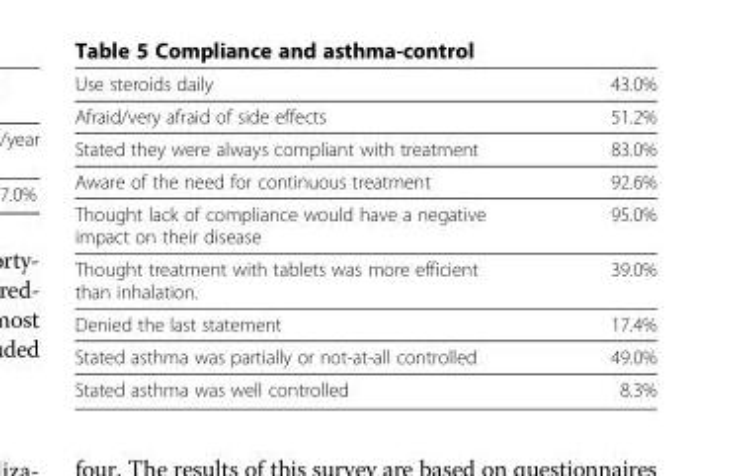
<table><tbody><tr><td>Use steroids daily</td><td>43.0%</td></tr><tr><td>Afraid/very afraid of side effects</td><td>51.2%</td></tr><tr><td>Stated they were always compliant with treatment</td><td>83.0%</td></tr><tr><td>Aware of the need for continuous treatment</td><td>92.6%</td></tr><tr><td>Thought lack of compliance would have a negative impact on their disease</td><td>95.0%</td></tr><tr><td>Thought treatment with tablets was more efficient than inhalation.</td><td>39.0%</td></tr><tr><td>Denied the last statement</td><td>17.4%</td></tr><tr><td>Stated asthma was partially or not-at-all controlled</td><td>49.0%</td></tr><tr><td>Stated asthma was well controlled</td><td>8.3%</td></tr></tbody></table>